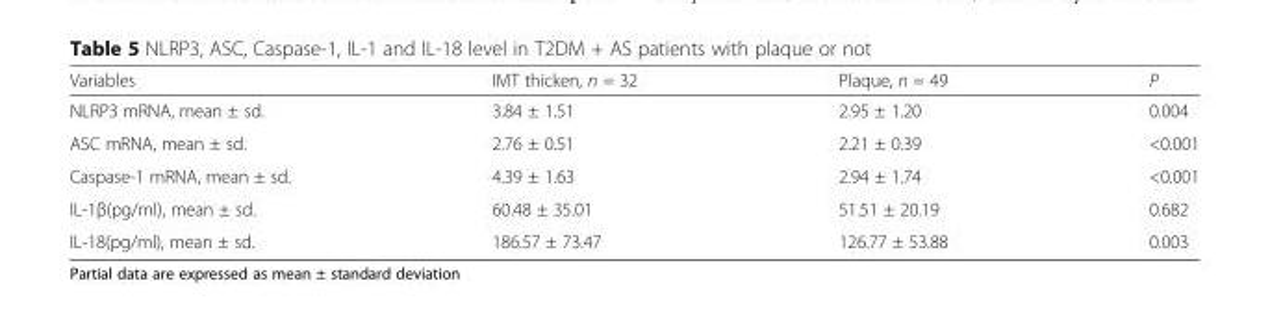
<table><thead><tr><td>Variables</td><td>IMT thicken, n = 32</td><td>Plaque, n = 49</td><td>P</td></tr></thead><tbody><tr><td>NLRP3 mRNA, mean ± sd.</td><td>3.84 ± 1.51</td><td>2.95 ± 1.20</td><td>0.004</td></tr><tr><td>ASC mRNA, mean ± sd.</td><td>2.76 ± 0.51</td><td>2.21 ± 0.39</td><td>&lt;0.001</td></tr><tr><td>Caspase-1 mRNA, mean ± sd.</td><td>4.39 ± 1.63</td><td>2.94 ± 1.74</td><td>&lt;0.001</td></tr><tr><td>IL-1β(pg/ml), mean ± sd.</td><td>60.48 ± 35.01</td><td>51.51 ± 20.19</td><td>0.682</td></tr><tr><td>IL-18(pg/ml), mean ± sd.</td><td>186.57 ± 73.47</td><td>126.77 ± 53.88</td><td>0.003</td></tr></tbody></table>